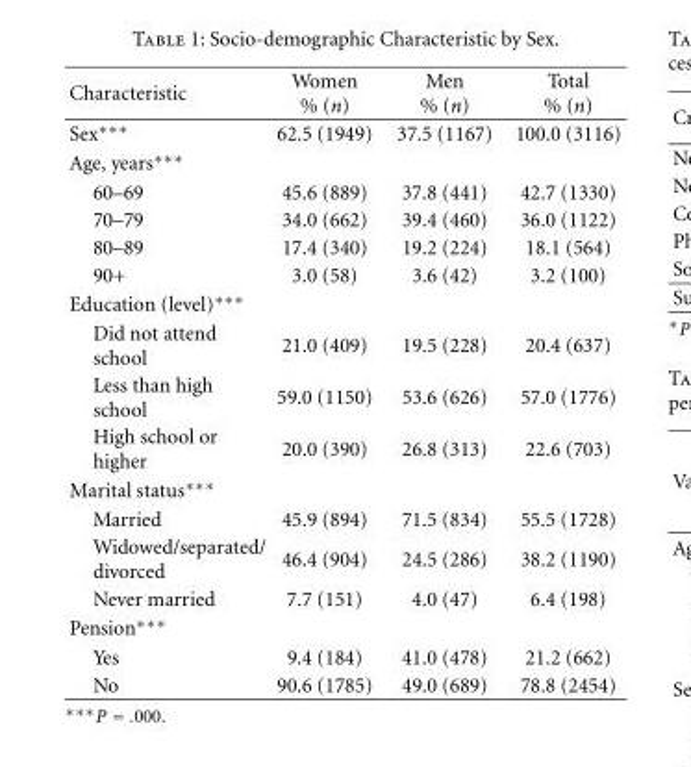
<table><thead><tr><td>Characteristic</td><td>Women % (n)</td><td>Men % (n)</td><td>Total % (n)</td></tr></thead><tbody><tr><td>Sex∗∗∗</td><td>62.5 (1949)</td><td>37.5 (1167)</td><td>100.0 (3116)</td></tr><tr><td colspan="4">Age, years∗∗∗</td></tr><tr><td>60–69</td><td>45.6 (889)</td><td>37.8 (441)</td><td>42.7 (1330)</td></tr><tr><td>70–79</td><td>34.0 (662)</td><td>39.4 (460)</td><td>36.0 (1122)</td></tr><tr><td>80–89</td><td>17.4 (340)</td><td>19.2 (224)</td><td>18.1 (564)</td></tr><tr><td>90+</td><td>3.0 (58)</td><td>3.6 (42)</td><td>3.2 (100)</td></tr><tr><td colspan="4">Education (level)∗∗∗</td></tr><tr><td>Did not attend school</td><td>21.0 (409)</td><td>19.5 (228)</td><td>20.4 (637)</td></tr><tr><td>Less than high school</td><td>59.0 (1150)</td><td>53.6 (626)</td><td>57.0 (1776)</td></tr><tr><td>High school or higher</td><td>20.0 (390)</td><td>26.8 (313)</td><td>22.6 (703)</td></tr><tr><td colspan="4">Marital status∗∗∗</td></tr><tr><td>Married</td><td>45.9 (894)</td><td>71.5 (834)</td><td>55.5 (1728)</td></tr><tr><td>Widowed/separated/ divorced</td><td>46.4 (904)</td><td>24.5 (286)</td><td>38.2 (1190)</td></tr><tr><td>Never married</td><td>7.7 (151)</td><td>4.0 (47)</td><td>6.4 (198)</td></tr><tr><td colspan="4">Pension∗∗∗</td></tr><tr><td>Yes</td><td>9.4 (184)</td><td>41.0 (478)</td><td>21.2 (662)</td></tr><tr><td>No</td><td>90.6 (1785)</td><td>49.0 (689)</td><td>78.8 (2454)</td></tr></tbody></table>